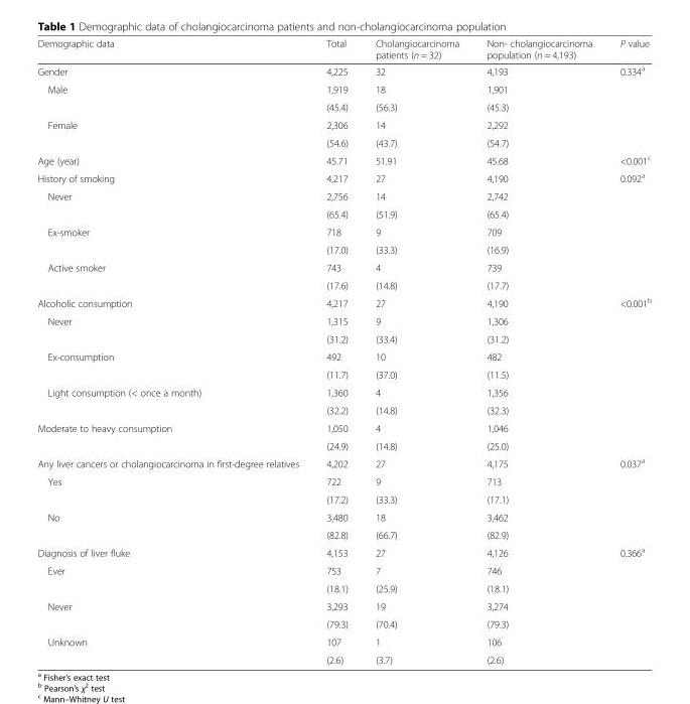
<table><thead><tr><td>Demographic data</td><td>Total</td><td>Cholangiocarcinoma patients (n = 32)</td><td>Non- cholangiocarcinoma population (n = 4,193)</td><td>P value</td></tr></thead><tbody><tr><td>Gender</td><td>4,225</td><td>32</td><td>4,193</td><td>0.334<sup>a</sup></td></tr><tr><td rowspan="2">Male</td><td>1,919</td><td>18</td><td>1,901</td><td rowspan="2"></td></tr><tr><td>(45.4)</td><td>(56.3)</td><td>(45.3)</td></tr><tr><td rowspan="2">Female</td><td>2,306</td><td>14</td><td>2,292</td><td rowspan="2"></td></tr><tr><td>(54.6)</td><td>(43.7)</td><td>(54.7)</td></tr><tr><td>Age (year)</td><td>45.71</td><td>51.91</td><td>45.68</td><td>&lt;0.001<sup>c</sup></td></tr><tr><td>History of smoking</td><td>4,217</td><td>27</td><td>4,190</td><td>0.092<sup>a</sup></td></tr><tr><td rowspan="2">Never</td><td>2,756</td><td>14</td><td>2,742</td><td rowspan="2"></td></tr><tr><td>(65.4)</td><td>(51.9)</td><td>(65.4)</td></tr><tr><td rowspan="2">Ex-smoker</td><td>718</td><td>9</td><td>709</td><td rowspan="2"></td></tr><tr><td>(17.0)</td><td>(33.3)</td><td>(16.9)</td></tr><tr><td rowspan="2">Active smoker</td><td>743</td><td>4</td><td>739</td><td rowspan="2"></td></tr><tr><td>(17.6)</td><td>(14.8)</td><td>(17.7)</td></tr><tr><td>Alcoholic consumption</td><td>4,217</td><td>27</td><td>4,190</td><td>&lt;0.001<sup>b</sup></td></tr><tr><td rowspan="2">Never</td><td>1,315</td><td>9</td><td>1,306</td><td rowspan="2"></td></tr><tr><td>(31.2)</td><td>(33.4)</td><td>(31.2)</td></tr><tr><td rowspan="2">Ex-consumption</td><td>492</td><td>10</td><td>482</td><td rowspan="2"></td></tr><tr><td>(11.7)</td><td>(37.0)</td><td>(11.5)</td></tr><tr><td rowspan="2">Light consumption (&lt; once a month)</td><td>1,360</td><td>4</td><td>1,356</td><td rowspan="2"></td></tr><tr><td>(32.2)</td><td>(14.8)</td><td>(32.3)</td></tr><tr><td rowspan="2">Moderate to heavy consumption</td><td>1,050</td><td>4</td><td>1,046</td><td rowspan="2"></td></tr><tr><td>(24.9)</td><td>(14.8)</td><td>(25.0)</td></tr><tr><td>Any liver cancers or cholangiocarcinoma in first-degree relatives</td><td>4,202</td><td>27</td><td>4,175</td><td>0.037<sup>a</sup></td></tr><tr><td rowspan="2">Yes</td><td>722</td><td>9</td><td>713</td><td rowspan="2"></td></tr><tr><td>(17.2)</td><td>(33.3)</td><td>(17.1)</td></tr><tr><td rowspan="2">No</td><td>3,480</td><td>18</td><td>3,462</td><td rowspan="2"></td></tr><tr><td>(82.8)</td><td>(66.7)</td><td>(82.9)</td></tr><tr><td>Diagnosis of liver fluke</td><td>4,153</td><td>27</td><td>4,126</td><td>0.366<sup>a</sup></td></tr><tr><td rowspan="2">Ever</td><td>753</td><td>7</td><td>746</td><td rowspan="2"></td></tr><tr><td>(18.1)</td><td>(25.9)</td><td>(18.1)</td></tr><tr><td rowspan="2">Never</td><td>3,293</td><td>19</td><td>3,274</td><td rowspan="2"></td></tr><tr><td>(79.3)</td><td>(70.4)</td><td>(79.3)</td></tr><tr><td rowspan="2">Unknown</td><td>107</td><td>1</td><td>106</td><td rowspan="2"></td></tr><tr><td>(2.6)</td><td>(3.7)</td><td>(2.6)</td></tr></tbody></table>